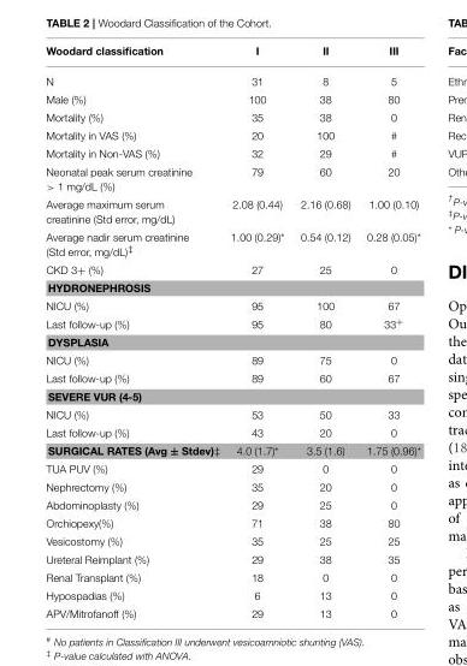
<table><thead><tr><td>Woodard classification</td><td>I</td><td>II</td><td>III</td></tr></thead><tbody><tr><td>N</td><td>31</td><td>8</td><td>5</td></tr><tr><td>Male (%)</td><td>100</td><td>38</td><td>80</td></tr><tr><td>Mortality (%)</td><td>35</td><td>38</td><td>0</td></tr><tr><td>Mortality in VAS (%)</td><td>20</td><td>100</td><td><sup>#</sup></td></tr><tr><td>Mortality in Non-VAS (%)</td><td>32</td><td>29</td><td><sup>#</sup></td></tr><tr><td>Neonatal peak serum creatinine &gt; 1 mg/dL (%)</td><td>79</td><td>60</td><td>20</td></tr><tr><td>Average maximum serum creatinine (Std error, mg/dL)</td><td>2.08 (0.44)</td><td>2.16 (0.68)</td><td>1.00 (0.10)</td></tr><tr><td>Average nadir serum creatinine (Std error, mg/dL)<sup>‡</sup></td><td>1.00 (0.29)*</td><td>0.54 (0.12)</td><td>0.28 (0.05)*</td></tr><tr><td>CKD 3<sup>+</sup> (%)</td><td>27</td><td>25</td><td>0</td></tr><tr><td colspan="4">HYDRONEPHROSIS</td></tr><tr><td>NICU (%)</td><td>95</td><td>100</td><td>67</td></tr><tr><td>Last follow-up (%)</td><td>95</td><td>80</td><td>33<sup>+</sup></td></tr><tr><td colspan="4">DYSPLASIA</td></tr><tr><td>NICU (%)</td><td>89</td><td>75</td><td>0</td></tr><tr><td>Last follow-up (%)</td><td>89</td><td>60</td><td>67</td></tr><tr><td colspan="4">SEVERE VUR (4-5)</td></tr><tr><td>NICU (%)</td><td>53</td><td>50</td><td>33</td></tr><tr><td>Last follow-up (%)</td><td>43</td><td>20</td><td>0</td></tr><tr><td>SURGICAL RATES (Avg ± Stdev)<sup>‡</sup></td><td>4.0 (1.7)*</td><td>3.5 (1.6)</td><td>1.75 (0.96)*</td></tr><tr><td>TUA PUV (%)</td><td>29</td><td>0</td><td>0</td></tr><tr><td>Nephrectomy (%)</td><td>35</td><td>20</td><td>0</td></tr><tr><td>Abdominoplasty (%)</td><td>29</td><td>25</td><td>0</td></tr><tr><td>Orchiopexy(%)</td><td>71</td><td>38</td><td>80</td></tr><tr><td>Vesicostomy (%)</td><td>35</td><td>25</td><td>25</td></tr><tr><td>Ureteral Reimplant (%)</td><td>29</td><td>38</td><td>35</td></tr><tr><td>Renal Transplant (%)</td><td>18</td><td>0</td><td>0</td></tr><tr><td>Hypospadias (%)</td><td>6</td><td>13</td><td>0</td></tr><tr><td>APV/Mitrofanoff (%)</td><td>29</td><td>13</td><td>0</td></tr></tbody></table>